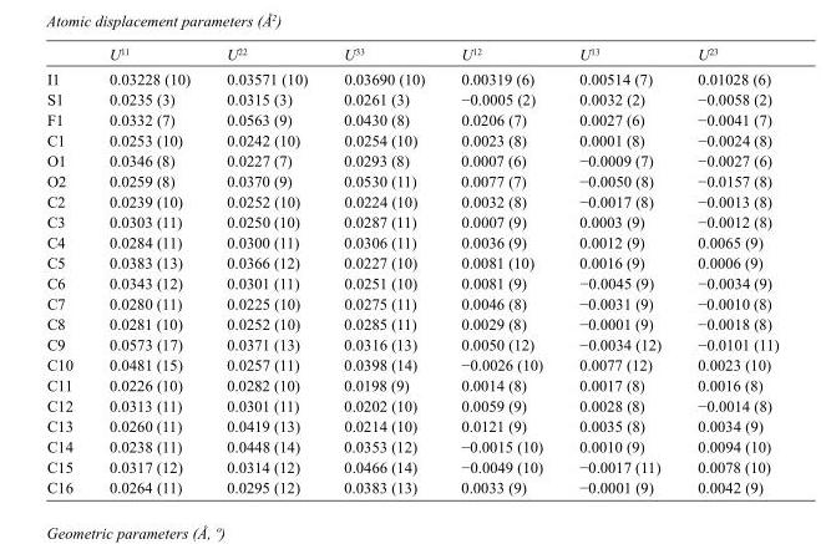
<table><thead><tr><td></td><td>U<sup>11</sup></td><td>U<sup>22</sup></td><td>U<sup>33</sup></td><td>U<sup>12</sup></td><td>U<sup>13</sup></td><td>U<sup>23</sup></td></tr></thead><tbody><tr><td>I1</td><td>0.03228 (10)</td><td>0.03571 (10)</td><td>0.03690 (10)</td><td>0.00319 (6)</td><td>0.00514 (7)</td><td>0.01028 (6)</td></tr><tr><td>S1</td><td>0.0235 (3)</td><td>0.0315 (3)</td><td>0.0261 (3)</td><td>−0.0005 (2)</td><td>0.0032 (2)</td><td>−0.0058 (2)</td></tr><tr><td>F1</td><td>0.0332 (7)</td><td>0.0563 (9)</td><td>0.0430 (8)</td><td>0.0206 (7)</td><td>0.0027 (6)</td><td>−0.0041 (7)</td></tr><tr><td>C1</td><td>0.0253 (10)</td><td>0.0242 (10)</td><td>0.0254 (10)</td><td>0.0023 (8)</td><td>0.0001 (8)</td><td>−0.0024 (8)</td></tr><tr><td>O1</td><td>0.0346 (8)</td><td>0.0227 (7)</td><td>0.0293 (8)</td><td>0.0007 (6)</td><td>−0.0009 (7)</td><td>−0.0027 (6)</td></tr><tr><td>O2</td><td>0.0259 (8)</td><td>0.0370 (9)</td><td>0.0530 (11)</td><td>0.0077 (7)</td><td>−0.0050 (8)</td><td>−0.0157 (8)</td></tr><tr><td>C2</td><td>0.0239 (10)</td><td>0.0252 (10)</td><td>0.0224 (10)</td><td>0.0032 (8)</td><td>−0.0017 (8)</td><td>−0.0013 (8)</td></tr><tr><td>C3</td><td>0.0303 (11)</td><td>0.0250 (10)</td><td>0.0287 (11)</td><td>0.0007 (9)</td><td>0.0003 (9)</td><td>−0.0012 (8)</td></tr><tr><td>C4</td><td>0.0284 (11)</td><td>0.0300 (11)</td><td>0.0306 (11)</td><td>0.0036 (9)</td><td>0.0012 (9)</td><td>0.0065 (9)</td></tr><tr><td>C5</td><td>0.0383 (13)</td><td>0.0366 (12)</td><td>0.0227 (10)</td><td>0.0081 (10)</td><td>0.0016 (9)</td><td>0.0006 (9)</td></tr><tr><td>C6</td><td>0.0343 (12)</td><td>0.0301 (11)</td><td>0.0251 (10)</td><td>0.0081 (9)</td><td>−0.0045 (9)</td><td>−0.0034 (9)</td></tr><tr><td>C7</td><td>0.0280 (11)</td><td>0.0225 (10)</td><td>0.0275 (11)</td><td>0.0046 (8)</td><td>−0.0031 (9)</td><td>−0.0010 (8)</td></tr><tr><td>C8</td><td>0.0281 (10)</td><td>0.0252 (10)</td><td>0.0285 (11)</td><td>0.0029 (8)</td><td>−0.0001 (9)</td><td>−0.0018 (8)</td></tr><tr><td>C9</td><td>0.0573 (17)</td><td>0.0371 (13)</td><td>0.0316 (13)</td><td>0.0050 (12)</td><td>−0.0034 (12)</td><td>−0.0101 (11)</td></tr><tr><td>C10</td><td>0.0481 (15)</td><td>0.0257 (11)</td><td>0.0398 (14)</td><td>−0.0026 (10)</td><td>0.0077 (12)</td><td>0.0023 (10)</td></tr><tr><td>C11</td><td>0.0226 (10)</td><td>0.0282 (10)</td><td>0.0198 (9)</td><td>0.0014 (8)</td><td>0.0017 (8)</td><td>0.0016 (8)</td></tr><tr><td>C12</td><td>0.0313 (11)</td><td>0.0301 (11)</td><td>0.0202 (10)</td><td>0.0059 (9)</td><td>0.0028 (8)</td><td>−0.0014 (8)</td></tr><tr><td>C13</td><td>0.0260 (11)</td><td>0.0419 (13)</td><td>0.0214 (10)</td><td>0.0121 (9)</td><td>0.0035 (8)</td><td>0.0034 (9)</td></tr><tr><td>C14</td><td>0.0238 (11)</td><td>0.0448 (14)</td><td>0.0353 (12)</td><td>−0.0015 (10)</td><td>0.0010 (9)</td><td>0.0094 (10)</td></tr><tr><td>C15</td><td>0.0317 (12)</td><td>0.0314 (12)</td><td>0.0466 (14)</td><td>−0.0049 (10)</td><td>−0.0017 (11)</td><td>0.0078 (10)</td></tr><tr><td>C16</td><td>0.0264 (11)</td><td>0.0295 (12)</td><td>0.0383 (13)</td><td>0.0033 (9)</td><td>−0.0001 (9)</td><td>0.0042 (9)</td></tr></tbody></table>